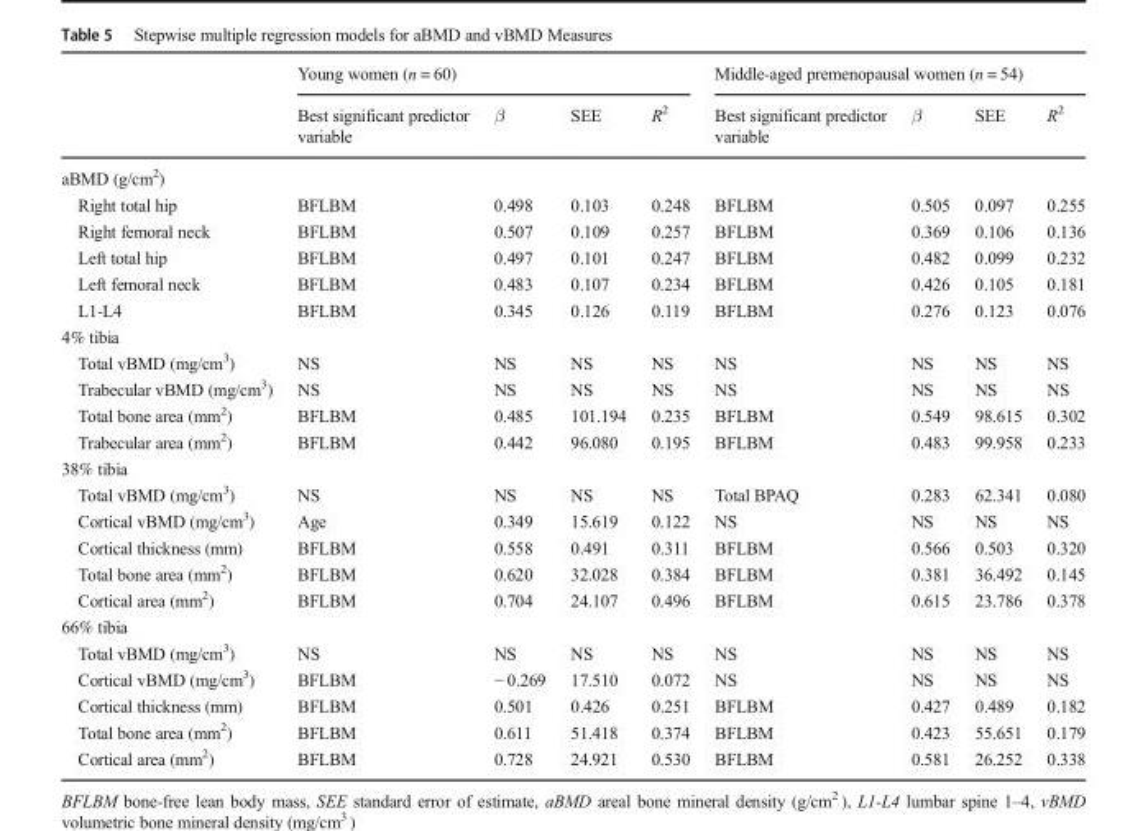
<table><thead><tr><td rowspan="2"></td><td colspan="4">Young women (n = 60)</td><td colspan="4">Middle-aged premenopausal women (n = 54)</td></tr><tr><td>Best significant predictor variable</td><td>β</td><td>SEE</td><td>R<sup>2</sup></td><td>Best significant predictor variable</td><td>β</td><td>SEE</td><td>R<sup>2</sup></td></tr></thead><tbody><tr><td colspan="9">aBMD (g/cm<sup>2</sup>)</td></tr><tr><td>Right total hip</td><td>BFLBM</td><td>0.498</td><td>0.103</td><td>0.248</td><td>BFLBM</td><td>0.505</td><td>0.097</td><td>0.255</td></tr><tr><td>Right femoral neck</td><td>BFLBM</td><td>0.507</td><td>0.109</td><td>0.257</td><td>BFLBM</td><td>0.369</td><td>0.106</td><td>0.136</td></tr><tr><td>Left total hip</td><td>BFLBM</td><td>0.497</td><td>0.101</td><td>0.247</td><td>BFLBM</td><td>0.482</td><td>0.099</td><td>0.232</td></tr><tr><td>Left femoral neck</td><td>BFLBM</td><td>0.483</td><td>0.107</td><td>0.234</td><td>BFLBM</td><td>0.426</td><td>0.105</td><td>0.181</td></tr><tr><td>L1-L4</td><td>BFLBM</td><td>0.345</td><td>0.126</td><td>0.119</td><td>BFLBM</td><td>0.276</td><td>0.123</td><td>0.076</td></tr><tr><td colspan="9">4% tibia</td></tr><tr><td>Total vBMD (mg/cm<sup>3</sup>)</td><td>NS</td><td>NS</td><td>NS</td><td>NS</td><td>NS</td><td>NS</td><td>NS</td><td>NS</td></tr><tr><td>Trabecular vBMD (mg/cm<sup>3</sup>)</td><td>NS</td><td>NS</td><td>NS</td><td>NS</td><td>NS</td><td>NS</td><td>NS</td><td>NS</td></tr><tr><td>Total bone area (mm<sup>2</sup>)</td><td>BFLBM</td><td>0.485</td><td>101.194</td><td>0.235</td><td>BFLBM</td><td>0.549</td><td>98.615</td><td>0.302</td></tr><tr><td>Trabecular area (mm<sup>2</sup>)</td><td>BFLBM</td><td>0.442</td><td>96.080</td><td>0.195</td><td>BFLBM</td><td>0.483</td><td>99.958</td><td>0.233</td></tr><tr><td colspan="9">38% tibia</td></tr><tr><td>Total vBMD (mg/cm<sup>3</sup>)</td><td>NS</td><td>NS</td><td>NS</td><td>NS</td><td>Total BPAQ</td><td>0.283</td><td>62.341</td><td>0.080</td></tr><tr><td>Cortical vBMD (mg/cm<sup>3</sup>)</td><td>Age</td><td>0.349</td><td>15.619</td><td>0.122</td><td>NS</td><td>NS</td><td>NS</td><td>NS</td></tr><tr><td>Cortical thickness (mm)</td><td>BFLBM</td><td>0.558</td><td>0.491</td><td>0.311</td><td>BFLBM</td><td>0.566</td><td>0.503</td><td>0.320</td></tr><tr><td>Total bone area (mm<sup>2</sup>)</td><td>BFLBM</td><td>0.620</td><td>32.028</td><td>0.384</td><td>BFLBM</td><td>0.381</td><td>36.492</td><td>0.145</td></tr><tr><td>Cortical area (mm<sup>2</sup>)</td><td>BFLBM</td><td>0.704</td><td>24.107</td><td>0.496</td><td>BFLBM</td><td>0.615</td><td>23.786</td><td>0.378</td></tr><tr><td colspan="9">66% tibia</td></tr><tr><td>Total vBMD (mg/cm<sup>3</sup>)</td><td>NS</td><td>NS</td><td>NS</td><td>NS</td><td>NS</td><td>NS</td><td>NS</td><td>NS</td></tr><tr><td>Cortical vBMD (mg/cm<sup>3</sup>)</td><td>BFLBM</td><td>− 0.269</td><td>17.510</td><td>0.072</td><td>NS</td><td>NS</td><td>NS</td><td>NS</td></tr><tr><td>Cortical thickness (mm)</td><td>BFLBM</td><td>0.501</td><td>0.426</td><td>0.251</td><td>BFLBM</td><td>0.427</td><td>0.489</td><td>0.182</td></tr><tr><td>Total bone area (mm<sup>2</sup>)</td><td>BFLBM</td><td>0.611</td><td>51.418</td><td>0.374</td><td>BFLBM</td><td>0.423</td><td>55.651</td><td>0.179</td></tr><tr><td>Cortical area (mm<sup>2</sup>)</td><td>BFLBM</td><td>0.728</td><td>24.921</td><td>0.530</td><td>BFLBM</td><td>0.581</td><td>26.252</td><td>0.338</td></tr></tbody></table>